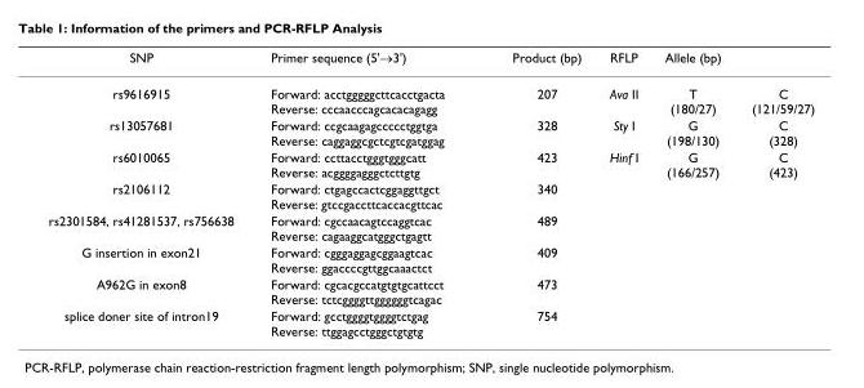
<table><thead><tr><td>SNP</td><td>Primer sequence (5&#x27;→3&#x27;)</td><td>Product (bp)</td><td>RFLP</td><td>Allele (bp)</td><td></td></tr></thead><tbody><tr><td>rs9616915</td><td>Forward: acctgggggcttcacctgacta Reverse: cccaacccagcacacagagg</td><td>207</td><td>Ava II</td><td>T (180/27)</td><td>C (121/59/27)</td></tr><tr><td>rs13057681</td><td>Forward: ccgcaagagccccctggtga Reverse: caggaggcgctcgtcgatggag</td><td>328</td><td>Sty I</td><td>G (198/130)</td><td>C (328)</td></tr><tr><td>rs6010065</td><td>Forward: ccttacctgggtgggcatt Reverse: acggggagggctcttgtg</td><td>423</td><td>Hinf I</td><td>G (166/257)</td><td>C (423)</td></tr><tr><td>rs2106112</td><td>Forward: ctgagccactcggaggttgct Reverse: gtccgaccttcaccacgttcac</td><td>340</td><td></td><td></td><td></td></tr><tr><td>rs2301584, rs41281537, rs756638</td><td>Forward: cgccaacagtccaggtcac Reverse: cagaaggcatgggctgagtt</td><td>489</td><td></td><td></td><td></td></tr><tr><td>G insertion in exon21</td><td>Forward: cgggaggagcggaagtcac Reverse: ggaccccgttggcaaactct</td><td>409</td><td></td><td></td><td></td></tr><tr><td>A962G in exon8</td><td>Forward: cgcacgccatgtgtgcattcct Reverse: tctcggggttggggggtcagac</td><td>473</td><td></td><td></td><td></td></tr><tr><td>splice doner site of intron19</td><td>Forward: gcctggggtggggtctgag Reverse: ttggagcctgggctgtgtg</td><td>754</td><td></td><td></td><td></td></tr></tbody></table>